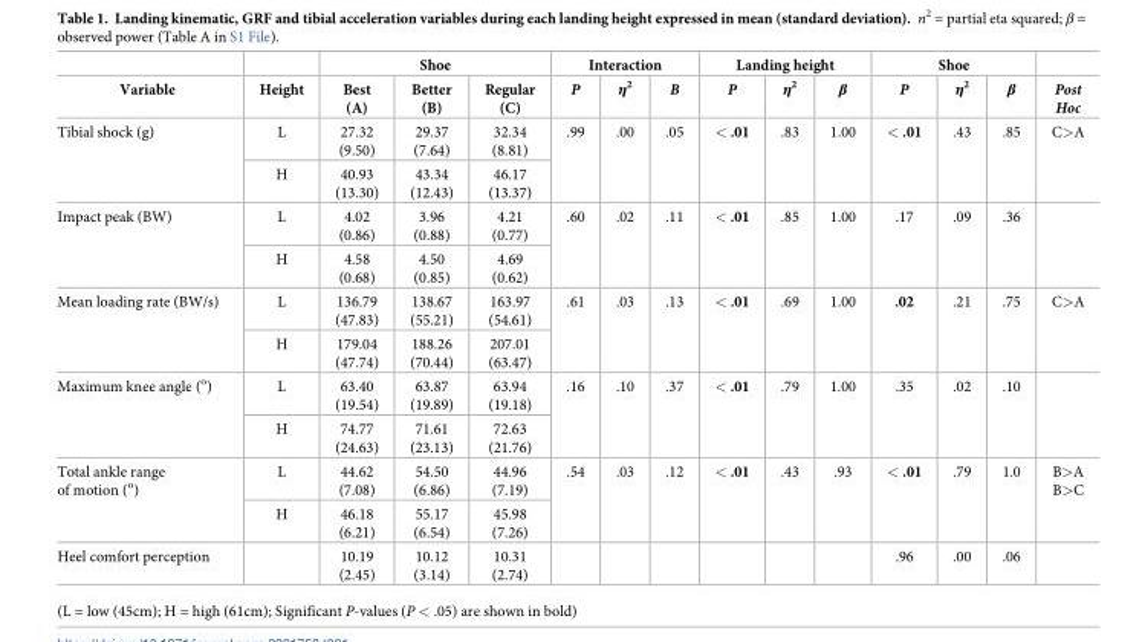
<table><thead><tr><td rowspan="2">Variable</td><td rowspan="2">Height</td><td colspan="3">Shoe</td><td colspan="3">Interaction</td><td colspan="3">Landing height</td><td colspan="3">Shoe</td><td rowspan="2">Post Hoc</td></tr><tr><td>Best (A)</td><td>Better (B)</td><td>Regular (C)</td><td>P</td><td>η<sup>2</sup></td><td>Β</td><td>P</td><td>η<sup>2</sup></td><td>β</td><td>P</td><td>η<sup>2</sup></td><td>β</td></tr></thead><tbody><tr><td rowspan="2">Tibial shock (g)</td><td>L</td><td>27.32 (9.50)</td><td>29.37 (7.64)</td><td>32.34 (8.81)</td><td rowspan="2">.99</td><td rowspan="2">.00</td><td rowspan="2">.05</td><td rowspan="2">&lt; .01</td><td rowspan="2">.83</td><td rowspan="2">1.00</td><td rowspan="2">&lt; .01</td><td rowspan="2">.43</td><td rowspan="2">.85</td><td rowspan="2">C&gt;A</td></tr><tr><td>H</td><td>40.93 (13.30)</td><td>43.34 (12.43)</td><td>46.17 (13.37)</td></tr><tr><td rowspan="2">Impact peak (BW)</td><td>L</td><td>4.02 (0.86)</td><td>3.96 (0.88)</td><td>4.21 (0.77)</td><td rowspan="2">.60</td><td rowspan="2">.02</td><td rowspan="2">.11</td><td rowspan="2">&lt; .01</td><td rowspan="2">.85</td><td rowspan="2">1.00</td><td rowspan="2">.17</td><td rowspan="2">.09</td><td rowspan="2">.36</td><td rowspan="2"></td></tr><tr><td>H</td><td>4.58 (0.68)</td><td>4.50 (0.85)</td><td>4.69 (0.62)</td></tr><tr><td rowspan="2">Mean loading rate (BW/s)</td><td>L</td><td>136.79 (47.83)</td><td>138.67 (55.21)</td><td>163.97 (54.61)</td><td rowspan="2">.61</td><td rowspan="2">.03</td><td rowspan="2">.13</td><td rowspan="2">&lt; .01</td><td rowspan="2">.69</td><td rowspan="2">1.00</td><td rowspan="2">.02</td><td rowspan="2">.21</td><td rowspan="2">.75</td><td rowspan="2">C&gt;A</td></tr><tr><td>H</td><td>179.04 (47.74)</td><td>188.26 (70.44)</td><td>207.01 (63.47)</td></tr><tr><td rowspan="2">Maximum knee angle (<sup>o</sup>)</td><td>L</td><td>63.40 (19.54)</td><td>63.87 (19.89)</td><td>63.94 (19.18)</td><td rowspan="2">.16</td><td rowspan="2">.10</td><td rowspan="2">.37</td><td rowspan="2">&lt; .01</td><td rowspan="2">.79</td><td rowspan="2">1.00</td><td rowspan="2">.35</td><td rowspan="2">.02</td><td rowspan="2">.10</td><td rowspan="2"></td></tr><tr><td>H</td><td>74.77 (24.63)</td><td>71.61 (23.13)</td><td>72.63 (21.76)</td></tr><tr><td rowspan="2">Total ankle range of motion (<sup>o</sup>)</td><td>L</td><td>44.62 (7.08)</td><td>54.50 (6.86)</td><td>44.96 (7.19)</td><td rowspan="2">.54</td><td rowspan="2">.03</td><td rowspan="2">.12</td><td rowspan="2">&lt; .01</td><td rowspan="2">.43</td><td rowspan="2">.93</td><td rowspan="2">&lt; .01</td><td rowspan="2">.79</td><td rowspan="2">1.0</td><td rowspan="2">B&gt;A B&gt;C</td></tr><tr><td>H</td><td>46.18 (6.21)</td><td>55.17 (6.54)</td><td>45.98 (7.26)</td></tr><tr><td>Heel comfort perception</td><td></td><td>10.19 (2.45)</td><td>10.12 (3.14)</td><td>10.31 (2.74)</td><td></td><td></td><td></td><td></td><td></td><td></td><td>.96</td><td>.00</td><td>.06</td><td></td></tr></tbody></table>